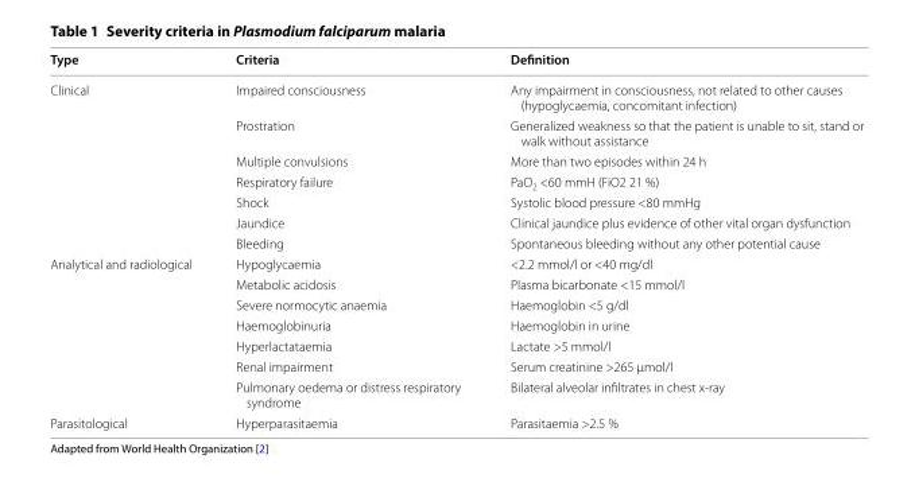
<table><thead><tr><td>Type</td><td>Criteria</td><td>Definition</td></tr></thead><tbody><tr><td rowspan="7">Clinical</td><td>Impaired consciousness</td><td>Any impairment in consciousness, not related to other causes (hypoglycaemia, concomitant infection)</td></tr><tr><td>Prostration</td><td>Generalized weakness so that the patient is unable to sit, stand or walk without assistance</td></tr><tr><td>Multiple convulsions</td><td>More than two episodes within 24 h</td></tr><tr><td>Respiratory failure</td><td>PaO<sub>2</sub> &lt;60 mmH (FiO2 21 %)</td></tr><tr><td>Shock</td><td>Systolic blood pressure &lt;80 mmHg</td></tr><tr><td>Jaundice</td><td>Clinical jaundice plus evidence of other vital organ dysfunction</td></tr><tr><td>Bleeding</td><td>Spontaneous bleeding without any other potential cause</td></tr><tr><td rowspan="7">Analytical and radiological</td><td>Hypoglycaemia</td><td>&lt;2.2 mmol/l or &lt;40 mg/dl</td></tr><tr><td>Metabolic acidosis</td><td>Plasma bicarbonate &lt;15 mmol/l</td></tr><tr><td>Severe normocytic anaemia</td><td>Haemoglobin &lt;5 g/dl</td></tr><tr><td>Haemoglobinuria</td><td>Haemoglobin in urine</td></tr><tr><td>Hyperlactataemia</td><td>Lactate &gt;5 mmol/l</td></tr><tr><td>Renal impairment</td><td>Serum creatinine &gt;265 µmol/l</td></tr><tr><td>Pulmonary oedema or distress respiratory syndrome</td><td>Bilateral alveolar infiltrates in chest x‑ray</td></tr><tr><td>Parasitological</td><td>Hyperparasitaemia</td><td>Parasitaemia &gt;2.5 %</td></tr></tbody></table>